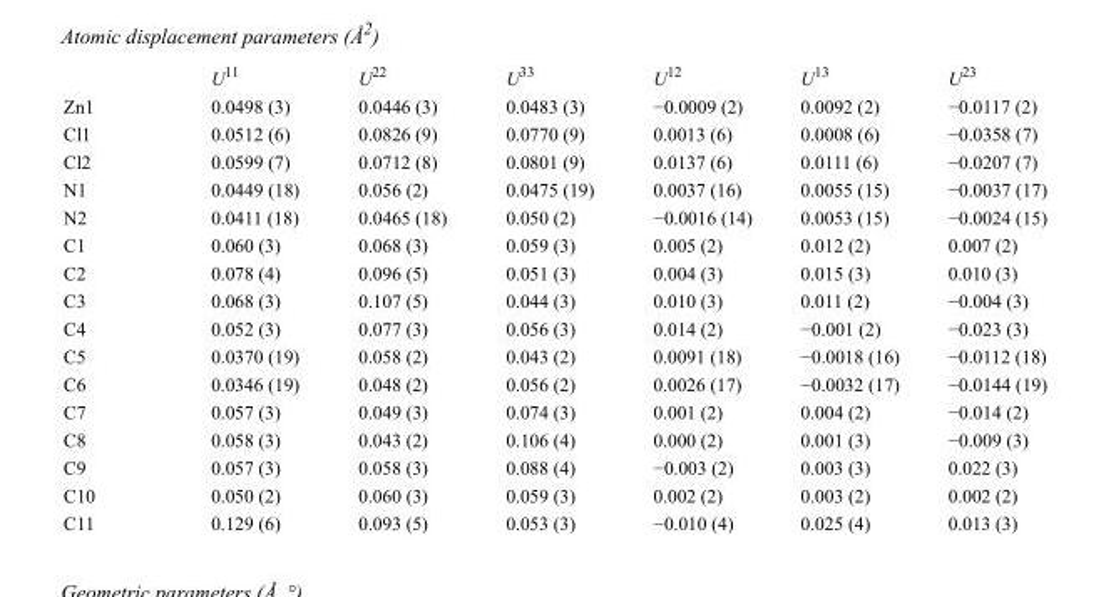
<table><thead><tr><td></td><td>U<sup>11</sup></td><td>U<sup>22</sup></td><td>U<sup>33</sup></td><td>U<sup>12</sup></td><td>U<sup>13</sup></td><td>U<sup>23</sup></td></tr></thead><tbody><tr><td>Zn1</td><td>0.0498 (3)</td><td>0.0446 (3)</td><td>0.0483 (3)</td><td>−0.0009 (2)</td><td>0.0092 (2)</td><td>−0.0117 (2)</td></tr><tr><td>Cl1</td><td>0.0512 (6)</td><td>0.0826 (9)</td><td>0.0770 (9)</td><td>0.0013 (6)</td><td>0.0008 (6)</td><td>−0.0358 (7)</td></tr><tr><td>Cl2</td><td>0.0599 (7)</td><td>0.0712 (8)</td><td>0.0801 (9)</td><td>0.0137 (6)</td><td>0.0111 (6)</td><td>−0.0207 (7)</td></tr><tr><td>N1</td><td>0.0449 (18)</td><td>0.056 (2)</td><td>0.0475 (19)</td><td>0.0037 (16)</td><td>0.0055 (15)</td><td>−0.0037 (17)</td></tr><tr><td>N2</td><td>0.0411 (18)</td><td>0.0465 (18)</td><td>0.050 (2)</td><td>−0.0016 (14)</td><td>0.0053 (15)</td><td>−0.0024 (15)</td></tr><tr><td>C1</td><td>0.060 (3)</td><td>0.068 (3)</td><td>0.059 (3)</td><td>0.005 (2)</td><td>0.012 (2)</td><td>0.007 (2)</td></tr><tr><td>C2</td><td>0.078 (4)</td><td>0.096 (5)</td><td>0.051 (3)</td><td>0.004 (3)</td><td>0.015 (3)</td><td>0.010 (3)</td></tr><tr><td>C3</td><td>0.068 (3)</td><td>0.107 (5)</td><td>0.044 (3)</td><td>0.010 (3)</td><td>0.011 (2)</td><td>−0.004 (3)</td></tr><tr><td>C4</td><td>0.052 (3)</td><td>0.077 (3)</td><td>0.056 (3)</td><td>0.014 (2)</td><td>−0.001 (2)</td><td>−0.023 (3)</td></tr><tr><td>C5</td><td>0.0370 (19)</td><td>0.058 (2)</td><td>0.043 (2)</td><td>0.0091 (18)</td><td>−0.0018 (16)</td><td>−0.0112 (18)</td></tr><tr><td>C6</td><td>0.0346 (19)</td><td>0.048 (2)</td><td>0.056 (2)</td><td>0.0026 (17)</td><td>−0.0032 (17)</td><td>−0.0144 (19)</td></tr><tr><td>C7</td><td>0.057 (3)</td><td>0.049 (3)</td><td>0.074 (3)</td><td>0.001 (2)</td><td>0.004 (2)</td><td>−0.014 (2)</td></tr><tr><td>C8</td><td>0.058 (3)</td><td>0.043 (2)</td><td>0.106 (4)</td><td>0.000 (2)</td><td>0.001 (3)</td><td>−0.009 (3)</td></tr><tr><td>C9</td><td>0.057 (3)</td><td>0.058 (3)</td><td>0.088 (4)</td><td>−0.003 (2)</td><td>0.003 (3)</td><td>0.022 (3)</td></tr><tr><td>C10</td><td>0.050 (2)</td><td>0.060 (3)</td><td>0.059 (3)</td><td>0.002 (2)</td><td>0.003 (2)</td><td>0.002 (2)</td></tr><tr><td>C11</td><td>0.129 (6)</td><td>0.093 (5)</td><td>0.053 (3)</td><td>−0.010 (4)</td><td>0.025 (4)</td><td>0.013 (3)</td></tr></tbody></table>